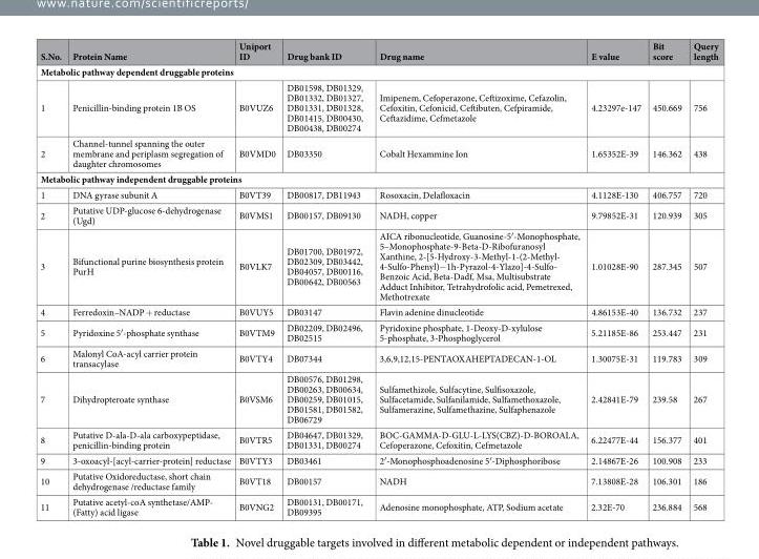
<table><thead><tr><td>S.No.</td><td>Protein Name</td><td>Uniport ID</td><td>Drug bank ID</td><td>Drug name</td><td>E value</td><td>Bit score</td><td>Query length</td></tr></thead><tbody><tr><td colspan="8">Metabolic pathway dependent druggable proteins</td></tr><tr><td>1</td><td>Penicillin-binding protein 1B OS</td><td>B0VUZ6</td><td>DB01598, DB01329, DB01332, DB01327, DB01331, DB01328, DB01415, DB00430, DB00438, DB00274</td><td>Imipenem, Cefoperazone, Ceftizoxime, Cefazolin, Cefoxitin, Cefonicid, Ceftibuten, Cefpiramide, Ceftazidime, Cefmetazole</td><td>4.23297e-147</td><td>450.669</td><td>756</td></tr><tr><td>2</td><td>Channel-tunnel spanning the outer membrane and periplasm segregation of daughter chromosomes</td><td>B0VMD0</td><td>DB03350</td><td>Cobalt Hexammine Ion</td><td>1.65352E-39</td><td>146.362</td><td>438</td></tr><tr><td colspan="8">Metabolic pathway independent druggable proteins</td></tr><tr><td>1</td><td>DNA gyrase subunit A</td><td>B0VT39</td><td>DB00817, DB11943</td><td>Rosoxacin, Delafloxacin</td><td>4.1128E-130</td><td>406.757</td><td>720</td></tr><tr><td>2</td><td>Putative UDP-glucose 6-dehydrogenase (Ugd)</td><td>B0VMS1</td><td>DB00157, DB09130</td><td>NADH, copper</td><td>9.79852E-31</td><td>120.939</td><td>305</td></tr><tr><td>3</td><td>Bifunctional purine biosynthesis protein PurH</td><td>B0VLK7</td><td>DB01700, DB01972, DB02309, DB03442, DB04057, DB00116, DB00642, DB00563</td><td>AICA ribonucleotide, Guanosine-5′-Monophosphate, 5–Monophosphate-9-Beta-D-Ribofuranosyl Xanthine, 2-[5-Hydroxy-3-Methyl-1-(2-Methyl- 4-Sulfo-Phenyl)−1h-Pyrazol-4-Ylazo]-4-Sulfo- Benzoic Acid, Beta-Dadf, Msa, Multisubstrate Adduct Inhibitor, Tetrahydrofolic acid, Pemetrexed, Methotrexate</td><td>1.01028E-90</td><td>287.345</td><td>507</td></tr><tr><td>4</td><td>Ferredoxin–NADP + reductase</td><td>B0VUY5</td><td>DB03147</td><td>Flavin adenine dinucleotide</td><td>4.86153E-40</td><td>136.732</td><td>237</td></tr><tr><td>5</td><td>Pyridoxine 5′-phosphate synthase</td><td>B0VTM9</td><td>DB02209, DB02496, DB02515</td><td>Pyridoxine phosphate, 1-Deoxy-D-xylulose 5-phosphate, 3-Phosphoglycerol</td><td>5.21185E-86</td><td>253.447</td><td>231</td></tr><tr><td>6</td><td>Malonyl CoA-acyl carrier protein transacylase</td><td>B0VTY4</td><td>DB07344</td><td>3,6,9,12,15-PENTAOXAHEPTADECAN-1-OL</td><td>1.30075E-31</td><td>119.783</td><td>309</td></tr><tr><td>7</td><td>Dihydropteroate synthase</td><td>B0VSM6</td><td>DB00576, DB01298, DB00263, DB00634, DB00259, DB01015, DB01581, DB01582, DB06729</td><td>Sulfamethizole, Sulfacytine, Sulfisoxazole, Sulfacetamide, Sulfanilamide, Sulfamethoxazole, Sulfamerazine, Sulfamethazine, Sulfaphenazole</td><td>2.42841E-79</td><td>239.58</td><td>267</td></tr><tr><td>8</td><td>Putative D-ala-D-ala carboxypeptidase, penicillin-binding protein</td><td>B0VTR5</td><td>DB04647, DB01329, DB01331, DB00274</td><td>BOC-GAMMA-D-GLU-L-LYS(CBZ)-D-BOROALA, Cefoperazone, Cefoxitin, Cefmetazole</td><td>6.22477E-44</td><td>156.377</td><td>401</td></tr><tr><td>9</td><td>3-oxoacyl-[acyl-carrier-protein] reductase</td><td>B0VTY3</td><td>DB03461</td><td>2′-Monophosphoadenosine 5′-Diphosphoribose</td><td>2.14867E-26</td><td>100.908</td><td>233</td></tr><tr><td>10</td><td>Putative Oxidoreductase, short chain dehydrogenase /reductase family</td><td>B0VT18</td><td>DB00157</td><td>NADH</td><td>7.13808E-28</td><td>106.301</td><td>186</td></tr><tr><td>11</td><td>Putative acetyl-coA synthetase/AMP- (Fatty) acid ligase</td><td>B0VNG2</td><td>DB00131, DB00171, DB09395</td><td>Adenosine monophosphate, ATP, Sodium acetate</td><td>2.32E-70</td><td>236.884</td><td>568</td></tr></tbody></table>